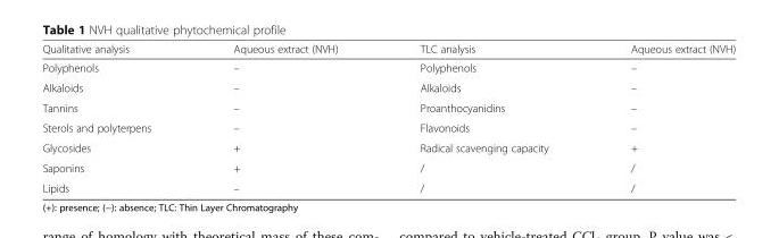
<table><thead><tr><td>Qualitative analysis</td><td>Aqueous extract (NVH)</td><td>TLC analysis</td><td>Aqueous extract (NVH)</td></tr></thead><tbody><tr><td>Polyphenols</td><td>–</td><td>Polyphenols</td><td>–</td></tr><tr><td>Alkaloids</td><td>–</td><td>Alkaloids</td><td>–</td></tr><tr><td>Tannins</td><td>–</td><td>Proanthocyanidins</td><td>–</td></tr><tr><td>Sterols and polyterpens</td><td>–</td><td>Flavonoids</td><td>–</td></tr><tr><td>Glycosides</td><td>+</td><td>Radical scavenging capacity</td><td>+</td></tr><tr><td>Saponins</td><td>+</td><td>/</td><td>/</td></tr><tr><td>Lipids</td><td>–</td><td>/</td><td>/</td></tr></tbody></table>